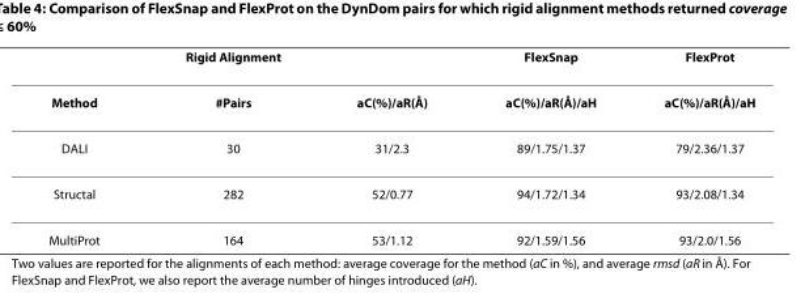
<table><thead><tr><td colspan="3">Rigid Alignment</td><td rowspan="2">FlexSnap aC(%)/aR(Å)/aH</td><td rowspan="2">FlexProt aC(%)/aR(Å)/aH</td></tr><tr><td>Method</td><td>#Pairs</td><td>aC(%)/aR(Å)</td></tr></thead><tbody><tr><td>DALI</td><td>30</td><td>31/2.3</td><td>89/1.75/1.37</td><td>79/2.36/1.37</td></tr><tr><td>Structal</td><td>282</td><td>52/0.77</td><td>94/1.72/1.34</td><td>93/2.08/1.34</td></tr><tr><td>MultiProt</td><td>164</td><td>53/1.12</td><td>92/1.59/1.56</td><td>93/2.0/1.56</td></tr></tbody></table>